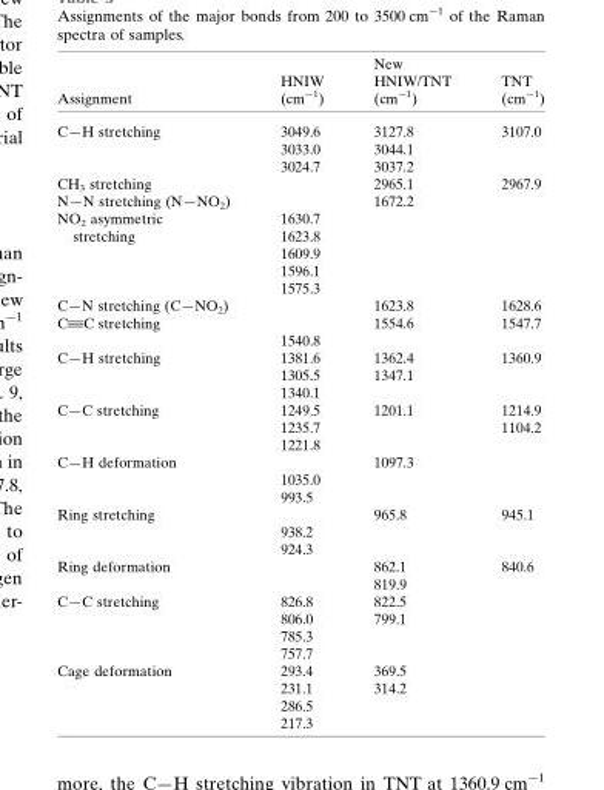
<table><thead><tr><td>Assignment</td><td>HNIW (cm<sup>−1</sup>)</td><td>New HNIW/TNT (cm<sup>−1</sup>)</td><td>TNT (cm<sup>−1</sup>)</td></tr></thead><tbody><tr><td rowspan="3">C—H stretching</td><td>3049.6</td><td>3127.8</td><td>3107.0</td></tr><tr><td>3033.0</td><td>3044.1</td><td></td></tr><tr><td>3024.7</td><td>3037.2</td><td></td></tr><tr><td>CH<sub>3</sub> stretching</td><td></td><td>2965.1</td><td>2967.9</td></tr><tr><td>N—N stretching (N—NO<sub>2</sub>)</td><td></td><td>1672.2</td><td></td></tr><tr><td rowspan="5">NO<sub>2</sub> asymmetric stretching</td><td>1630.7</td><td></td><td></td></tr><tr><td>1623.8</td><td></td><td></td></tr><tr><td>1609.9</td><td></td><td></td></tr><tr><td>1596.1</td><td></td><td></td></tr><tr><td>1575.3</td><td></td><td></td></tr><tr><td>C—N stretching (C—NO<sub>2</sub>)</td><td></td><td>1623.8</td><td>1628.6</td></tr><tr><td rowspan="2">C C stretching</td><td></td><td>1554.6</td><td>1547.7</td></tr><tr><td>1540.8</td><td></td><td></td></tr><tr><td rowspan="3">C—H stretching</td><td>1381.6</td><td>1362.4</td><td>1360.9</td></tr><tr><td>1305.5</td><td>1347.1</td><td></td></tr><tr><td>1340.1</td><td></td><td></td></tr><tr><td rowspan="3">C—C stretching</td><td>1249.5</td><td>1201.1</td><td>1214.9</td></tr><tr><td>1235.7</td><td></td><td>1104.2</td></tr><tr><td>1221.8</td><td></td><td></td></tr><tr><td rowspan="3">C—H deformation</td><td></td><td>1097.3</td><td></td></tr><tr><td>1035.0</td><td></td><td></td></tr><tr><td>993.5</td><td></td><td></td></tr><tr><td rowspan="3">Ring stretching</td><td></td><td>965.8</td><td>945.1</td></tr><tr><td>938.2</td><td></td><td></td></tr><tr><td>924.3</td><td></td><td></td></tr><tr><td rowspan="2">Ring deformation</td><td></td><td>862.1</td><td>840.6</td></tr><tr><td></td><td>819.9</td><td></td></tr><tr><td rowspan="4">C—C stretching</td><td>826.8</td><td>822.5</td><td></td></tr><tr><td>806.0</td><td>799.1</td><td></td></tr><tr><td>785.3</td><td></td><td></td></tr><tr><td>757.7</td><td></td><td></td></tr><tr><td rowspan="4">Cage deformation</td><td>293.4</td><td>369.5</td><td></td></tr><tr><td>231.1</td><td>314.2</td><td></td></tr><tr><td>286.5</td><td></td><td></td></tr><tr><td>217.3</td><td></td><td></td></tr></tbody></table>